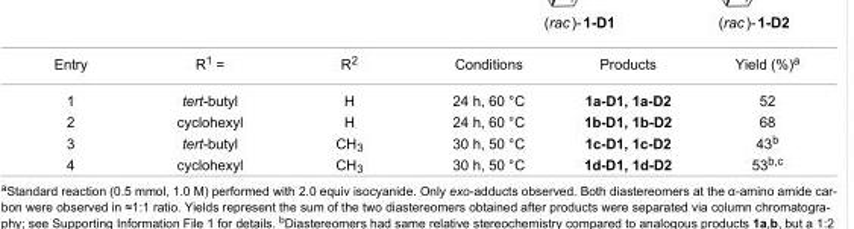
<table><tbody><tr><td>Entry</td><td>R<sup>1</sup> =</td><td>R<sup>2</sup></td><td>Conditions</td><td>Products</td><td>Yield (%)<sup>a</sup></td></tr><tr><td>1</td><td>tert-butyl</td><td>H</td><td>24 h, 60 °C</td><td>1a-D1, 1a-D2</td><td>52</td></tr><tr><td>2</td><td>cyclohexyl</td><td>H</td><td>24 h, 60 °C</td><td>1b-D1, 1b-D2</td><td>68</td></tr><tr><td>3</td><td>tert-butyl</td><td>CH<sub>3</sub></td><td>30 h, 50 °C</td><td>1c-D1, 1c-D2</td><td>43<sup>b</sup></td></tr><tr><td>4</td><td>cyclohexyl</td><td>CH<sub>3</sub></td><td>30 h, 50 °C</td><td>1d-D1, 1d-D2</td><td>53<sup>b,c</sup></td></tr></tbody></table>